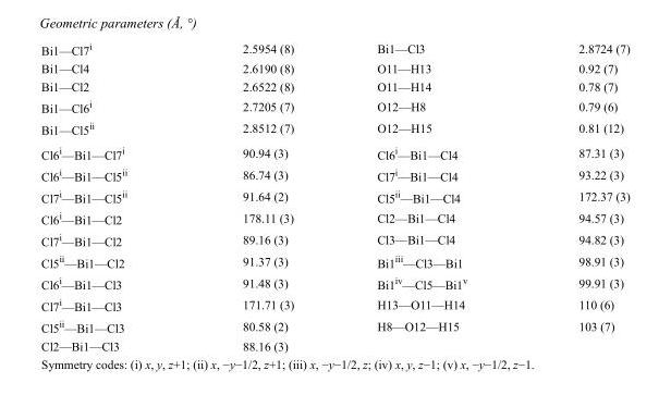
<table><tbody><tr><td>Bi1—Cl7<sup>i</sup></td><td>2.5954 (8)</td><td>Bi1—Cl3</td><td>2.8724 (7)</td></tr><tr><td>Bi1—Cl4</td><td>2.6190 (8)</td><td>O11—H13</td><td>0.92 (7)</td></tr><tr><td>Bi1—Cl2</td><td>2.6522 (8)</td><td>O11—H14</td><td>0.78 (7)</td></tr><tr><td>Bi1—Cl6<sup>i</sup></td><td>2.7205 (7)</td><td>O12—H8</td><td>0.79 (6)</td></tr><tr><td>Bi1—Cl5<sup>ii</sup></td><td>2.8512 (7)</td><td>O12—H15</td><td>0.81 (12)</td></tr><tr><td>Cl6<sup>i</sup>—Bi1—Cl7<sup>i</sup></td><td>90.94 (3)</td><td>Cl6<sup>i</sup>—Bi1—Cl4</td><td>87.31 (3)</td></tr><tr><td>Cl6<sup>i</sup>—Bi1—Cl5<sup>ii</sup></td><td>86.74 (3)</td><td>Cl7<sup>i</sup>—Bi1—Cl4</td><td>93.22 (3)</td></tr><tr><td>Cl7<sup>i</sup>—Bi1—Cl5<sup>ii</sup></td><td>91.64 (2)</td><td>Cl5<sup>ii</sup>—Bi1—Cl4</td><td>172.37 (3)</td></tr><tr><td>Cl6<sup>i</sup>—Bi1—Cl2</td><td>178.11 (3)</td><td>Cl2—Bi1—Cl4</td><td>94.57 (3)</td></tr><tr><td>Cl7<sup>i</sup>—Bi1—Cl2</td><td>89.16 (3)</td><td>Cl3—Bi1—Cl4</td><td>94.82 (3)</td></tr><tr><td>Cl5<sup>ii</sup>—Bi1—Cl2</td><td>91.37 (3)</td><td>Bi1<sup>iii</sup>—Cl3—Bi1</td><td>98.91 (3)</td></tr><tr><td>Cl6<sup>i</sup>—Bi1—Cl3</td><td>91.48 (3)</td><td>Bi1<sup>iv</sup>—Cl5—Bi1<sup>v</sup></td><td>99.91 (3)</td></tr><tr><td>Cl7<sup>i</sup>—Bi1—Cl3</td><td>171.71 (3)</td><td>H13—O11—H14</td><td>110 (6)</td></tr><tr><td>Cl5<sup>ii</sup>—Bi1—Cl3</td><td>80.58 (2)</td><td>H8—O12—H15</td><td>103 (7)</td></tr><tr><td>Cl2—Bi1—Cl3</td><td>88.16 (3)</td><td></td><td></td></tr></tbody></table>